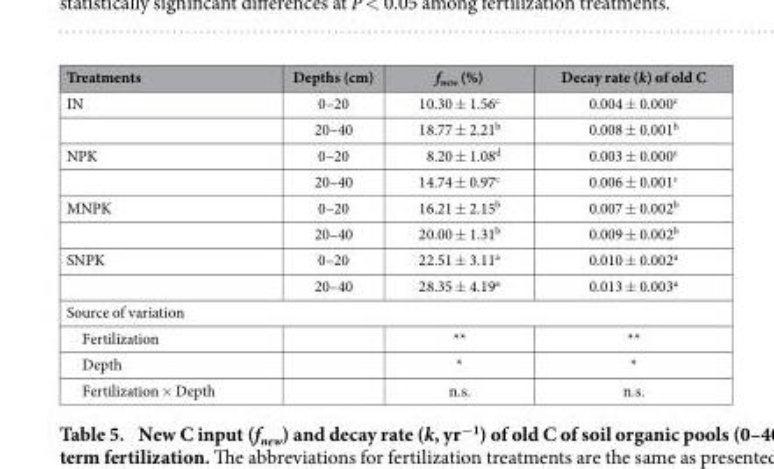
<table><thead><tr><td>Treatments</td><td>Depths (cm)</td><td>f<sub>new</sub> (%)</td><td>Decay rate (k) of old C</td></tr></thead><tbody><tr><td rowspan="2">IN</td><td>0–20</td><td>10.30 ± 1.56<sup>c</sup></td><td>0.004 ± 0.000<sup>c</sup></td></tr><tr><td>20–40</td><td>18.77 ± 2.21<sup>b</sup></td><td>0.008 ± 0.001<sup>b</sup></td></tr><tr><td rowspan="2">NPK</td><td>0–20</td><td>8.20 ± 1.08<sup>d</sup></td><td>0.003 ± 0.000<sup>c</sup></td></tr><tr><td>20–40</td><td>14.74 ± 0.97<sup>c</sup></td><td>0.006 ± 0.001<sup>c</sup></td></tr><tr><td rowspan="2">MNPK</td><td>0–20</td><td>16.21 ± 2.15<sup>b</sup></td><td>0.007 ± 0.002<sup>b</sup></td></tr><tr><td>20–40</td><td>20.00 ± 1.31<sup>b</sup></td><td>0.009 ± 0.002<sup>b</sup></td></tr><tr><td rowspan="2">SNPK</td><td>0–20</td><td>22.51 ± 3.11<sup>a</sup></td><td>0.010 ± 0.002<sup>a</sup></td></tr><tr><td>20–40</td><td>28.35 ± 4.19<sup>a</sup></td><td>0.013 ± 0.003<sup>a</sup></td></tr><tr><td colspan="4">Source of variation</td></tr><tr><td>Fertilization</td><td></td><td>**</td><td>**</td></tr><tr><td>Depth</td><td></td><td>*</td><td>*</td></tr><tr><td>Fertilization × Depth</td><td></td><td>n.s.</td><td>n.s.</td></tr></tbody></table>